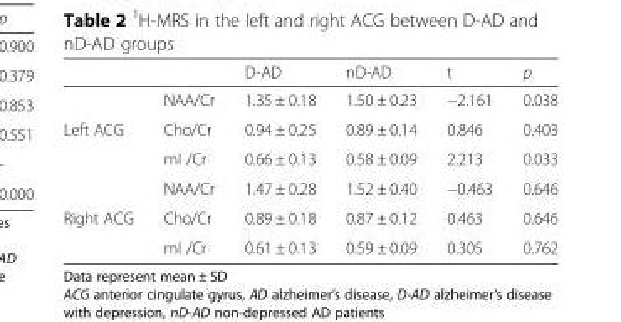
<table><thead><tr><td></td><td></td><td>D-AD</td><td>nD-AD</td><td>t</td><td>p</td></tr></thead><tbody><tr><td></td><td>NAA/Cr</td><td>1.35 ± 0.18</td><td>1.50 ± 0.23</td><td>−2.161</td><td>0.038</td></tr><tr><td rowspan="3">Left ACG</td><td>Cho/Cr</td><td>0.94 ± 0.25</td><td>0.89 ± 0.14</td><td>0.846</td><td>0.403</td></tr><tr><td>mI /Cr</td><td>0.66 ± 0.13</td><td>0.58 ± 0.09</td><td>2.213</td><td>0.033</td></tr><tr><td>NAA/Cr</td><td>1.47 ± 0.28</td><td>1.52 ± 0.40</td><td>−0.463</td><td>0.646</td></tr><tr><td rowspan="2">Right ACG</td><td>Cho/Cr</td><td>0.89 ± 0.18</td><td>0.87 ± 0.12</td><td>0.463</td><td>0.646</td></tr><tr><td>mI /Cr</td><td>0.61 ± 0.13</td><td>0.59 ± 0.09</td><td>0.305</td><td>0.762</td></tr></tbody></table>